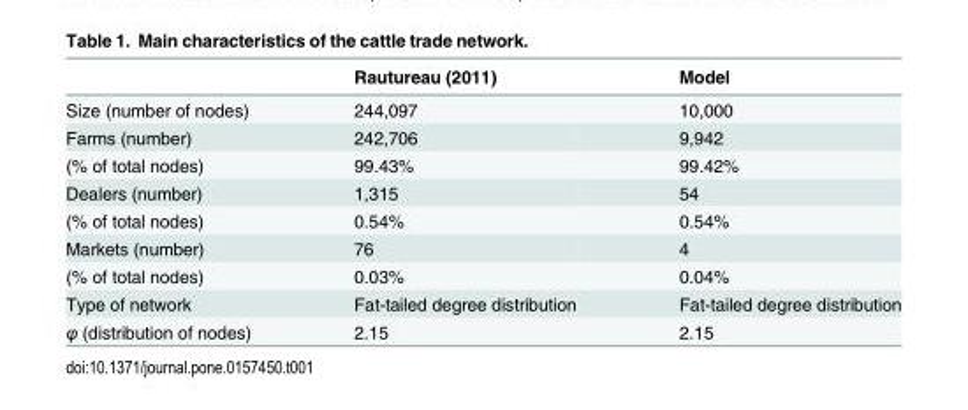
<table><thead><tr><td></td><td>Rautureau (2011)</td><td>Model</td></tr></thead><tbody><tr><td>Size (number of nodes)</td><td>244,097</td><td>10,000</td></tr><tr><td>Farms (number)</td><td>242,706</td><td>9,942</td></tr><tr><td>(% of total nodes)</td><td>99.43%</td><td>99.42%</td></tr><tr><td>Dealers (number)</td><td>1,315</td><td>54</td></tr><tr><td>(% of total nodes)</td><td>0.54%</td><td>0.54%</td></tr><tr><td>Markets (number)</td><td>76</td><td>4</td></tr><tr><td>(% of total nodes)</td><td>0.03%</td><td>0.04%</td></tr><tr><td>Type of network</td><td>Fat-tailed degree distribution</td><td>Fat-tailed degree distribution</td></tr><tr><td>φ (distribution of nodes)</td><td>2.15</td><td>2.15</td></tr></tbody></table>